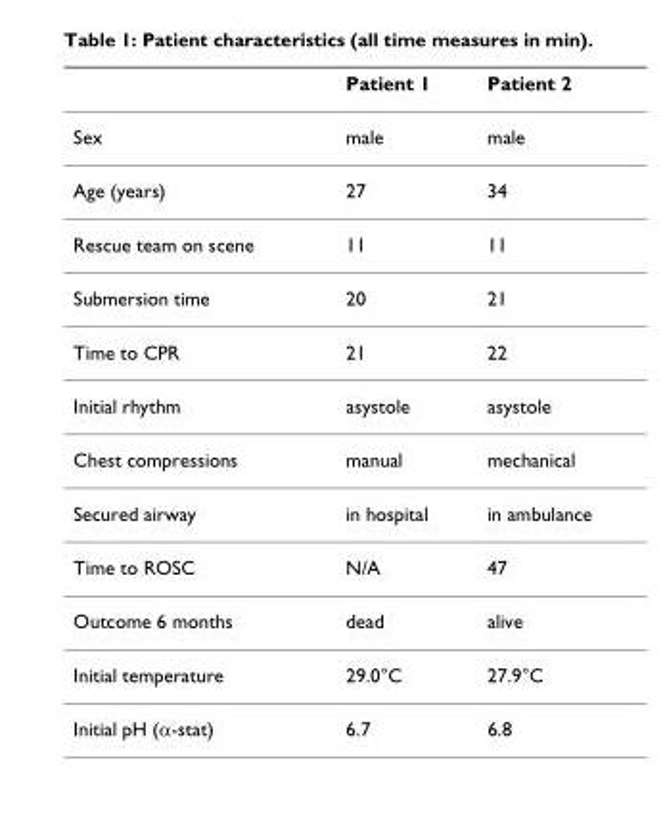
<table><thead><tr><td></td><td>Patient 1</td><td>Patient 2</td></tr></thead><tbody><tr><td>Sex</td><td>male</td><td>male</td></tr><tr><td>Age (years)</td><td>27</td><td>34</td></tr><tr><td>Rescue team on scene</td><td>11</td><td>11</td></tr><tr><td>Submersion time</td><td>20</td><td>21</td></tr><tr><td>Time to CPR</td><td>21</td><td>22</td></tr><tr><td>Initial rhythm</td><td>asystole</td><td>asystole</td></tr><tr><td>Chest compressions</td><td>manual</td><td>mechanical</td></tr><tr><td>Secured airway</td><td>in hospital</td><td>in ambulance</td></tr><tr><td>Time to ROSC</td><td>N/A</td><td>47</td></tr><tr><td>Outcome 6 months</td><td>dead</td><td>alive</td></tr><tr><td>Initial temperature</td><td>29.0°C</td><td>27.9°C</td></tr><tr><td>Initial pH (α-stat)</td><td>6.7</td><td>6.8</td></tr></tbody></table>